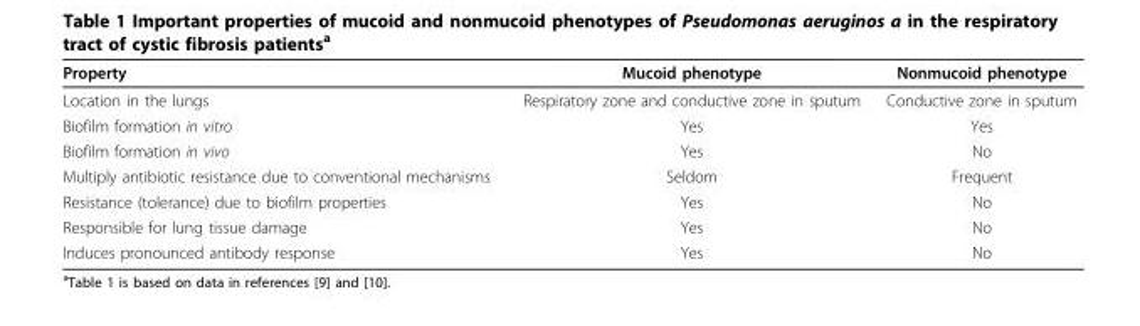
<table><thead><tr><td>Property</td><td>Mucoid phenotype</td><td>Nonmucoid phenotype</td></tr></thead><tbody><tr><td>Location in the lungs</td><td>Respiratory zone and conductive zone in sputum</td><td>Conductive zone in sputum</td></tr><tr><td>Biofilm formation in vitro</td><td>Yes</td><td>Yes</td></tr><tr><td>Biofilm formation in vivo</td><td>Yes</td><td>No</td></tr><tr><td>Multiply antibiotic resistance due to conventional mechanisms</td><td>Seldom</td><td>Frequent</td></tr><tr><td>Resistance (tolerance) due to biofilm properties</td><td>Yes</td><td>No</td></tr><tr><td>Responsible for lung tissue damage</td><td>Yes</td><td>No</td></tr><tr><td>Induces pronounced antibody response</td><td>Yes</td><td>No</td></tr></tbody></table>